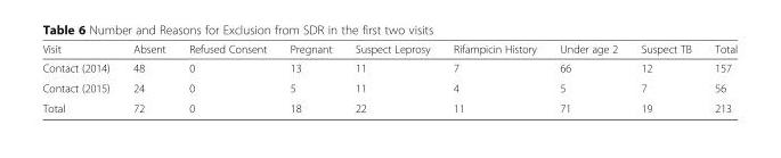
<table><thead><tr><td>Visit</td><td>Absent</td><td>Refused Consent</td><td>Pregnant</td><td>Suspect Leprosy</td><td>Rifampicin History</td><td>Under age 2</td><td>Suspect TB</td><td>Total</td></tr></thead><tbody><tr><td>Contact (2014)</td><td>48</td><td>0</td><td>13</td><td>11</td><td>7</td><td>66</td><td>12</td><td>157</td></tr><tr><td>Contact (2015)</td><td>24</td><td>0</td><td>5</td><td>11</td><td>4</td><td>5</td><td>7</td><td>56</td></tr><tr><td>Total</td><td>72</td><td>0</td><td>18</td><td>22</td><td>11</td><td>71</td><td>19</td><td>213</td></tr></tbody></table>